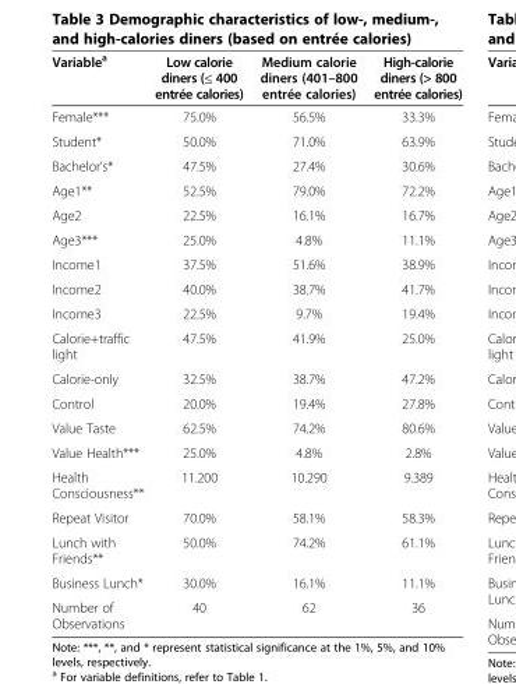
<table><thead><tr><td>Variable<sup>a</sup></td><td>Low calorie diners (≤ 400 entrée calories)</td><td>Medium calorie diners (401–800 entrée calories)</td><td>High-calorie diners (&gt; 800 entrée calories)</td></tr></thead><tbody><tr><td>Female***</td><td>75.0%</td><td>56.5%</td><td>33.3%</td></tr><tr><td>Student*</td><td>50.0%</td><td>71.0%</td><td>63.9%</td></tr><tr><td>Bachelor’s*</td><td>47.5%</td><td>27.4%</td><td>30.6%</td></tr><tr><td>Age1**</td><td>52.5%</td><td>79.0%</td><td>72.2%</td></tr><tr><td>Age2</td><td>22.5%</td><td>16.1%</td><td>16.7%</td></tr><tr><td>Age3***</td><td>25.0%</td><td>4.8%</td><td>11.1%</td></tr><tr><td>Income1</td><td>37.5%</td><td>51.6%</td><td>38.9%</td></tr><tr><td>Income2</td><td>40.0%</td><td>38.7%</td><td>41.7%</td></tr><tr><td>Income3</td><td>22.5%</td><td>9.7%</td><td>19.4%</td></tr><tr><td>Calorie+traffic light</td><td>47.5%</td><td>41.9%</td><td>25.0%</td></tr><tr><td>Calorie-only</td><td>32.5%</td><td>38.7%</td><td>47.2%</td></tr><tr><td>Control</td><td>20.0%</td><td>19.4%</td><td>27.8%</td></tr><tr><td>Value Taste</td><td>62.5%</td><td>74.2%</td><td>80.6%</td></tr><tr><td>Value Health***</td><td>25.0%</td><td>4.8%</td><td>2.8%</td></tr><tr><td>Health Consciousness**</td><td>11.200</td><td>10.290</td><td>9.389</td></tr><tr><td>Repeat Visitor</td><td>70.0%</td><td>58.1%</td><td>58.3%</td></tr><tr><td>Lunch with Friends**</td><td>50.0%</td><td>74.2%</td><td>61.1%</td></tr><tr><td>Business Lunch*</td><td>30.0%</td><td>16.1%</td><td>11.1%</td></tr><tr><td>Number of Observations</td><td>40</td><td>62</td><td>36</td></tr></tbody></table>